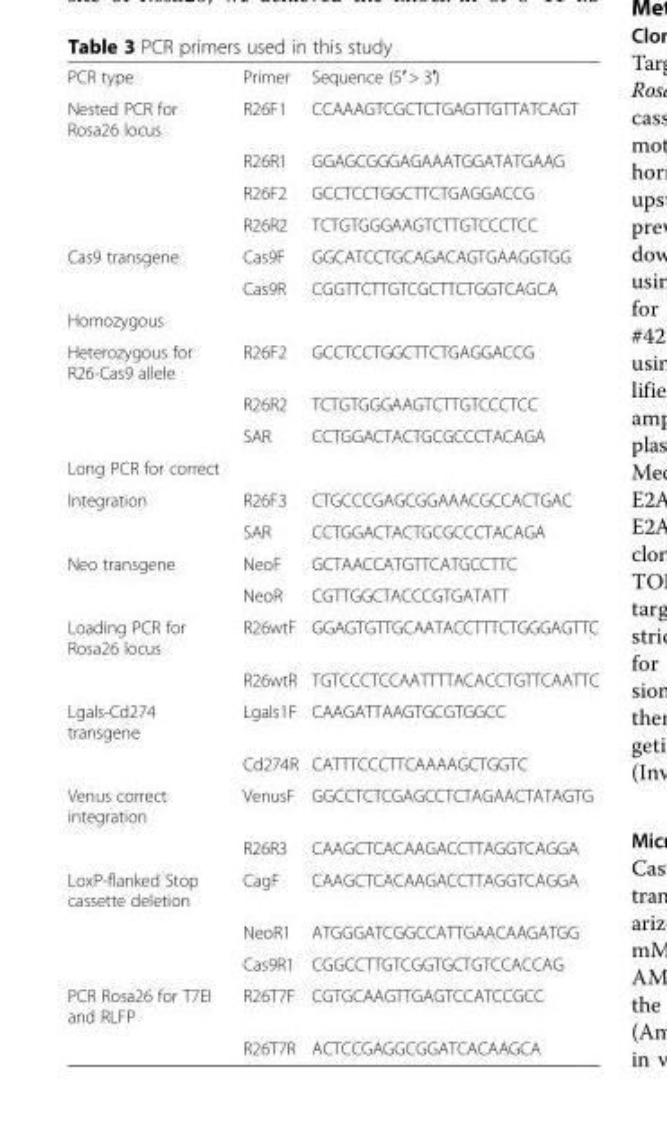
<table><tbody><tr><td>PCR type</td><td>Primer</td><td>Sequence (5′ &gt; 3′)</td></tr><tr><td rowspan="4">Nested PCR for Rosa26 locus</td><td>R26F1</td><td>CCAAAGTCGCTCTGAGTTGTTATCAGT</td></tr><tr><td>R26R1</td><td>GGAGCGGGAGAAATGGATATGAAG</td></tr><tr><td>R26F2</td><td>GCCTCCTGGCTTCTGAGGACCG</td></tr><tr><td>R26R2</td><td>TCTGTGGGAAGTCTTGTCCCTCC</td></tr><tr><td rowspan="2">Cas9 transgene</td><td>Cas9F</td><td>GGCATCCTGCAGACAGTGAAGGTGG</td></tr><tr><td>Cas9R</td><td>CGGTTCTTGTCGCTTCTGGTCAGCA</td></tr><tr><td colspan="3">Homozygous</td></tr><tr><td rowspan="3">Heterozygous for R26-Cas9 allele</td><td>R26F2</td><td>GCCTCCTGGCTTCTGAGGACCG</td></tr><tr><td>R26R2</td><td>TCTGTGGGAAGTCTTGTCCCTCC</td></tr><tr><td>SAR</td><td>CCTGGACTACTGCGCCCTACAGA</td></tr><tr><td colspan="3">Long PCR for correct</td></tr><tr><td rowspan="2">Integration</td><td>R26F3</td><td>CTGCCCGAGCGGAAACGCCACTGAC</td></tr><tr><td>SAR</td><td>CCTGGACTACTGCGCCCTACAGA</td></tr><tr><td rowspan="2">Neo transgene</td><td>NeoF</td><td>GCTAACCATGTTCATGCCTTC</td></tr><tr><td>NeoR</td><td>CGTTGGCTACCCGTGATATT</td></tr><tr><td rowspan="2">Loading PCR for Rosa26 locus</td><td>R26wtF</td><td>GGAGTGTTGCAATACCTTTCTGGGAGTTC</td></tr><tr><td>R26wtR</td><td>TGTCCCTCCAATTTTACACCTGTTCAATTC</td></tr><tr><td rowspan="2">Lgals-Cd274 transgene</td><td>Lgals1F</td><td>CAAGATTAAGTGCGTGGCC</td></tr><tr><td>Cd274R</td><td>CATTTCCCTTCAAAAGCTGGTC</td></tr><tr><td rowspan="2">Venus correct integration</td><td>VenusF</td><td>GGCCTCTCGAGCCTCTAGAACTATAGTG</td></tr><tr><td>R26R3</td><td>CAAGCTCACAAGACCTTAGGTCAGGA</td></tr><tr><td rowspan="3">LoxP-flanked Stop cassette deletion</td><td>CagF</td><td>CAAGCTCACAAGACCTTAGGTCAGGA</td></tr><tr><td>NeoR1</td><td>ATGGGATCGGCCATTGAACAAGATGG</td></tr><tr><td>Cas9R1</td><td>CGGCCTTGTCGGTGCTGTCCACCAG</td></tr><tr><td rowspan="2">PCR Rosa26 for T7EI and RLFP</td><td>R26T7F</td><td>CGTGCAAGTTGAGTCCATCCGCC</td></tr><tr><td>R26T7R</td><td>ACTCCGAGGCGGATCACAAGCA</td></tr></tbody></table>